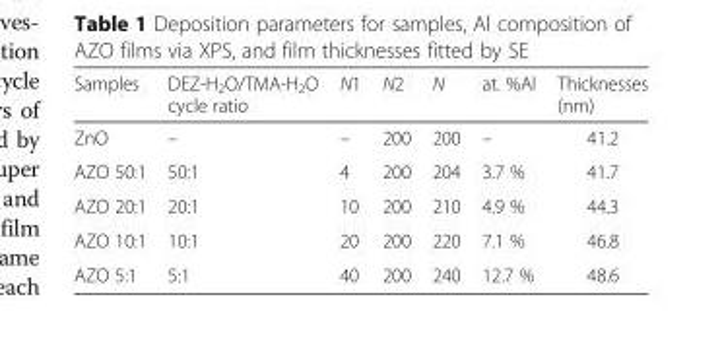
<table><thead><tr><td>Samples</td><td>DEZ-H<sub>2</sub>O/TMA-H<sub>2</sub>O cycle ratio</td><td>N1</td><td>N2</td><td>N</td><td>at. %Al</td><td>Thicknesses (nm)</td></tr></thead><tbody><tr><td>ZnO</td><td>–</td><td>–</td><td>200</td><td>200</td><td>–</td><td>41.2</td></tr><tr><td>AZO 50:1</td><td>50:1</td><td>4</td><td>200</td><td>204</td><td>3.7 %</td><td>41.7</td></tr><tr><td>AZO 20:1</td><td>20:1</td><td>10</td><td>200</td><td>210</td><td>4.9 %</td><td>44.3</td></tr><tr><td>AZO 10:1</td><td>10:1</td><td>20</td><td>200</td><td>220</td><td>7.1 %</td><td>46.8</td></tr><tr><td>AZO 5:1</td><td>5:1</td><td>40</td><td>200</td><td>240</td><td>12.7 %</td><td>48.6</td></tr></tbody></table>